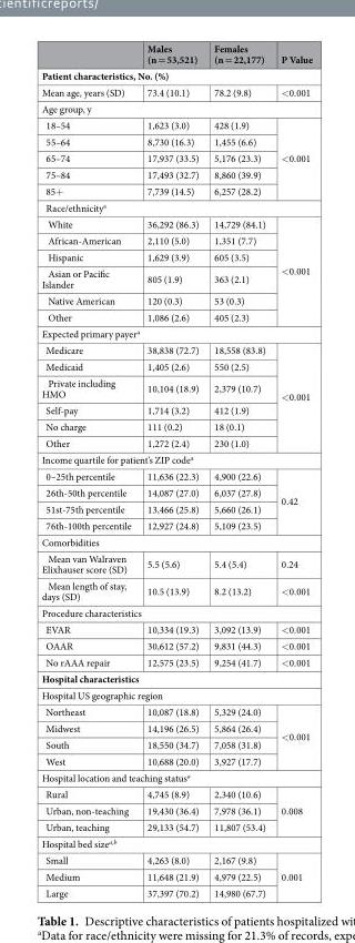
<table><thead><tr><td></td><td>Males (n = 53,521)</td><td>Females (n = 22,177)</td><td>P Value</td></tr></thead><tbody><tr><td colspan="4">Patient characteristics, No. (%)</td></tr><tr><td>Mean age, years (SD)</td><td>73.4 (10.1)</td><td>78.2 (9.8)</td><td>&lt;0.001</td></tr><tr><td colspan="4">Age group, y</td></tr><tr><td>18–54</td><td>1,623 (3.0)</td><td>428 (1.9)</td><td rowspan="5">&lt;0.001</td></tr><tr><td>55–64</td><td>8,730 (16.3)</td><td>1,455 (6.6)</td></tr><tr><td>65–74</td><td>17,937 (33.5)</td><td>5,176 (23.3)</td></tr><tr><td>75–84</td><td>17,493 (32.7)</td><td>8,860 (39.9)</td></tr><tr><td>85+</td><td>7,739 (14.5)</td><td>6,257 (28.2)</td></tr><tr><td colspan="4">Race/ethnicity<sup>a</sup></td></tr><tr><td>White</td><td>36,292 (86.3)</td><td>14,729 (84.1)</td><td rowspan="6">&lt;0.001</td></tr><tr><td>African-American</td><td>2,110 (5.0)</td><td>1,351 (7.7)</td></tr><tr><td>Hispanic</td><td>1,629 (3.9)</td><td>605 (3.5)</td></tr><tr><td>Asian or Pacific Islander</td><td>805 (1.9)</td><td>363 (2.1)</td></tr><tr><td>Native American</td><td>120 (0.3)</td><td>53 (0.3)</td></tr><tr><td>Other</td><td>1,086 (2.6)</td><td>405 (2.3)</td></tr><tr><td colspan="4">Expected primary payer<sup>a</sup></td></tr><tr><td>Medicare</td><td>38,838 (72.7)</td><td>18,558 (83.8)</td><td rowspan="6">&lt;0.001</td></tr><tr><td>Medicaid</td><td>1,405 (2.6)</td><td>550 (2.5)</td></tr><tr><td>Private including HMO</td><td>10,104 (18.9)</td><td>2,379 (10.7)</td></tr><tr><td>Self-pay</td><td>1,714 (3.2)</td><td>412 (1.9)</td></tr><tr><td>No charge</td><td>111 (0.2)</td><td>18 (0.1)</td></tr><tr><td>Other</td><td>1,272 (2.4)</td><td>230 (1.0)</td></tr><tr><td colspan="4">Income quartile for patient’s ZIP code<sup>a</sup></td></tr><tr><td>0–25th percentile</td><td>11,636 (22.3)</td><td>4,900 (22.6)</td><td rowspan="4">0.42</td></tr><tr><td>26th-50th percentile</td><td>14,087 (27.0)</td><td>6,037 (27.8)</td></tr><tr><td>51st-75th percentile</td><td>13,466 (25.8)</td><td>5,660 (26.1)</td></tr><tr><td>76th-100th percentile</td><td>12,927 (24.8)</td><td>5,109 (23.5)</td></tr><tr><td colspan="4">Comorbidities</td></tr><tr><td>Mean van Walraven Elixhauser score (SD)</td><td>5.5 (5.6)</td><td>5.4 (5.4)</td><td>0.24</td></tr><tr><td>Mean length of stay, days (SD)</td><td>10.5 (13.9)</td><td>8.2 (13.2)</td><td>&lt;0.001</td></tr><tr><td colspan="4">Procedure characteristics</td></tr><tr><td>EVAR</td><td>10,334 (19.3)</td><td>3,092 (13.9)</td><td>&lt;0.001</td></tr><tr><td>OAAR</td><td>30,612 (57.2)</td><td>9,831 (44.3)</td><td>&lt;0.001</td></tr><tr><td>No rAAA repair</td><td>12,575 (23.5)</td><td>9,254 (41.7)</td><td>&lt;0.001</td></tr><tr><td colspan="4">Hospital characteristics</td></tr><tr><td colspan="4">Hospital US geographic region</td></tr><tr><td>Northeast</td><td>10,087 (18.8)</td><td>5,329 (24.0)</td><td rowspan="4">&lt;0.001</td></tr><tr><td>Midwest</td><td>14,196 (26.5)</td><td>5,864 (26.4)</td></tr><tr><td>South</td><td>18,550 (34.7)</td><td>7,058 (31.8)</td></tr><tr><td>West</td><td>10,688 (20.0)</td><td>3,927 (17.7)</td></tr><tr><td colspan="4">Hospital location and teaching status<sup>a</sup></td></tr><tr><td>Rural</td><td>4,745 (8.9)</td><td>2,340 (10.6)</td><td rowspan="3">0.008</td></tr><tr><td>Urban, non-teaching</td><td>19,430 (36.4)</td><td>7,978 (36.1)</td></tr><tr><td>Urban, teaching</td><td>29,133 (54.7)</td><td>11,807 (53.4)</td></tr><tr><td colspan="4">Hospital bed size<sup>a,b</sup></td></tr><tr><td>Small</td><td>4,263 (8.0)</td><td>2,167 (9.8)</td><td rowspan="3">0.001</td></tr><tr><td>Medium</td><td>11,648 (21.9)</td><td>4,979 (22.5)</td></tr><tr><td>Large</td><td>37,397 (70.2)</td><td>14,980 (67.7)</td></tr></tbody></table>